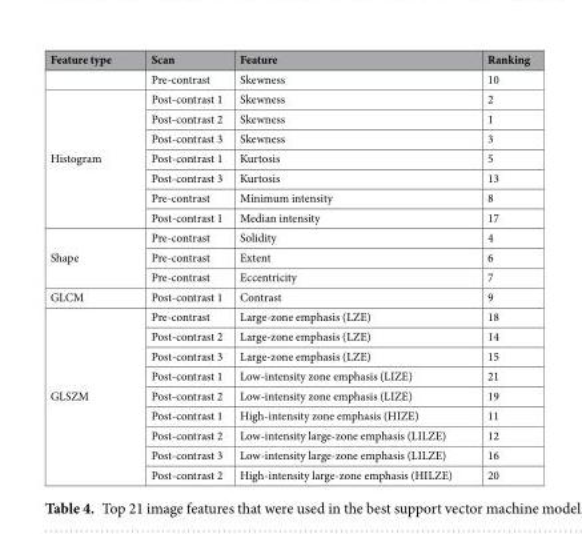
<table><thead><tr><td>Feature type</td><td>Scan</td><td>Feature</td><td>Ranking</td></tr></thead><tbody><tr><td></td><td>Pre-contrast</td><td>Skewness</td><td>10</td></tr><tr><td rowspan="7">Histogram</td><td>Post-contrast 1</td><td>Skewness</td><td>2</td></tr><tr><td>Post-contrast 2</td><td>Skewness</td><td>1</td></tr><tr><td>Post-contrast 3</td><td>Skewness</td><td>3</td></tr><tr><td>Post-contrast 1</td><td>Kurtosis</td><td>5</td></tr><tr><td>Post-contrast 3</td><td>Kurtosis</td><td>13</td></tr><tr><td>Pre-contrast</td><td>Minimum intensity</td><td>8</td></tr><tr><td>Post-contrast 1</td><td>Median intensity</td><td>17</td></tr><tr><td rowspan="3">Shape</td><td>Pre-contrast</td><td>Solidity</td><td>4</td></tr><tr><td>Pre-contrast</td><td>Extent</td><td>6</td></tr><tr><td>Pre-contrast</td><td>Eccentricity</td><td>7</td></tr><tr><td>GLCM</td><td>Post-contrast 1</td><td>Contrast</td><td>9</td></tr><tr><td rowspan="9">GLSZM</td><td>Pre-contrast</td><td>Large-zone emphasis (LZE)</td><td>18</td></tr><tr><td>Post-contrast 2</td><td>Large-zone emphasis (LZE)</td><td>14</td></tr><tr><td>Post-contrast 3</td><td>Large-zone emphasis (LZE)</td><td>15</td></tr><tr><td>Post-contrast 1</td><td>Low-intensity zone emphasis (LIZE)</td><td>21</td></tr><tr><td>Post-contrast 2</td><td>Low-intensity zone emphasis (LIZE)</td><td>19</td></tr><tr><td>Post-contrast 1</td><td>High-intensity zone emphasis (HIZE)</td><td>11</td></tr><tr><td>Post-contrast 2</td><td>Low-intensity large-zone emphasis (LILZE)</td><td>12</td></tr><tr><td>Post-contrast 3</td><td>Low-intensity large-zone emphasis (LILZE)</td><td>16</td></tr><tr><td>Post-contrast 2</td><td>High-intensity large-zone emphasis (HILZE)</td><td>20</td></tr></tbody></table>